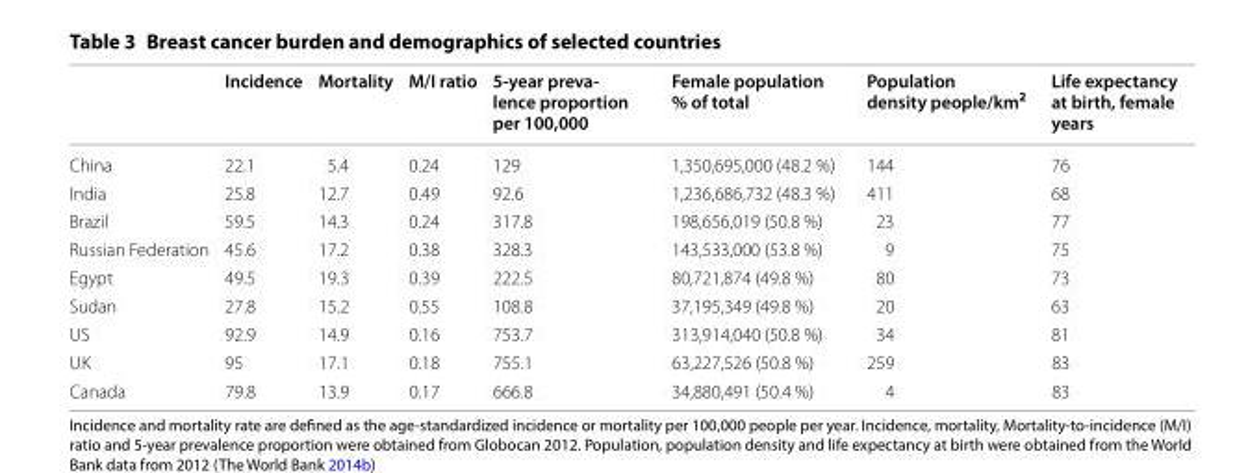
<table><thead><tr><td></td><td>Incidence</td><td>Mortality</td><td>M/I ratio</td><td>5‑year preva‑ lence proportion per 100,000</td><td>Female population % of total</td><td>Population density people/km<sup>2</sup></td><td>Life expectancy at birth, female years</td></tr></thead><tbody><tr><td>China</td><td>22.1</td><td>5.4</td><td>0.24</td><td>129</td><td>1,350,695,000 (48.2 %)</td><td>144</td><td>76</td></tr><tr><td>India</td><td>25.8</td><td>12.7</td><td>0.49</td><td>92.6</td><td>1,236,686,732 (48.3 %)</td><td>411</td><td>68</td></tr><tr><td>Brazil</td><td>59.5</td><td>14.3</td><td>0.24</td><td>317.8</td><td>198,656,019 (50.8 %)</td><td>23</td><td>77</td></tr><tr><td>Russian Federation</td><td>45.6</td><td>17.2</td><td>0.38</td><td>328.3</td><td>143,533,000 (53.8 %)</td><td>9</td><td>75</td></tr><tr><td>Egypt</td><td>49.5</td><td>19.3</td><td>0.39</td><td>222.5</td><td>80,721,874 (49.8 %)</td><td>80</td><td>73</td></tr><tr><td>Sudan</td><td>27.8</td><td>15.2</td><td>0.55</td><td>108.8</td><td>37,195,349 (49.8 %)</td><td>20</td><td>63</td></tr><tr><td>US</td><td>92.9</td><td>14.9</td><td>0.16</td><td>753.7</td><td>313,914,040 (50.8 %)</td><td>34</td><td>81</td></tr><tr><td>UK</td><td>95</td><td>17.1</td><td>0.18</td><td>755.1</td><td>63,227,526 (50.8 %)</td><td>259</td><td>83</td></tr><tr><td>Canada</td><td>79.8</td><td>13.9</td><td>0.17</td><td>666.8</td><td>34,880,491 (50.4 %)</td><td>4</td><td>83</td></tr></tbody></table>